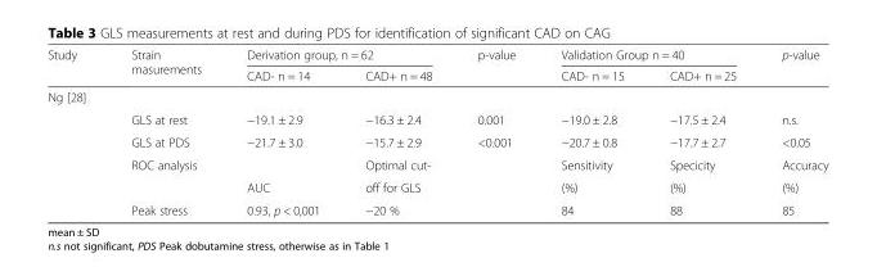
<table><thead><tr><td rowspan="2">Study</td><td rowspan="2">Strain masurements</td><td colspan="2">Derivation group, n = 62</td><td rowspan="2">p-value</td><td colspan="2">Validation Group n = 40</td><td rowspan="2">p-value</td></tr><tr><td>CAD- n = 14</td><td>CAD+ n = 48</td><td>CAD- n = 15</td><td>CAD+ n = 25</td></tr></thead><tbody><tr><td colspan="8">Ng [28]</td></tr><tr><td></td><td>GLS at rest</td><td>−19.1 ± 2.9</td><td>−16.3 ± 2.4</td><td>0.001</td><td>−19.0 ± 2.8</td><td>−17.5 ± 2.4</td><td>n.s.</td></tr><tr><td></td><td>GLS at PDS</td><td>−21.7 ± 3.0</td><td>−15.7 ± 2.9</td><td>&lt;0.001</td><td>−20.7 ± 0.8</td><td>−17.7 ± 2.7</td><td>&lt;0.05</td></tr><tr><td></td><td>ROC analysis</td><td></td><td>Optimal cut-</td><td></td><td>Sensitivity</td><td>Specicity</td><td>Accuracy</td></tr><tr><td></td><td></td><td>AUC</td><td>off for GLS</td><td></td><td>(%)</td><td>(%)</td><td>(%)</td></tr><tr><td></td><td>Peak stress</td><td>0.93, p &lt; 0,001</td><td>−20 %</td><td></td><td>84</td><td>88</td><td>85</td></tr></tbody></table>